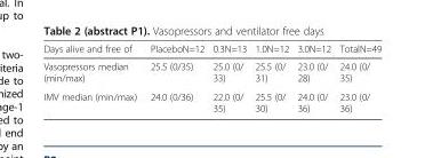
<table><thead><tr><td>Days alive and free of</td><td>PlaceboN=12</td><td>0.3N=13</td><td>1.0N=12</td><td>3.0N=12</td><td>TotalN=49</td></tr></thead><tbody><tr><td>Vasopressors median (min/max)</td><td>25.5 (0/35)</td><td>25.0 (0/ 33)</td><td>25.5 (0/ 31)</td><td>23.0 (0/ 28)</td><td>24.0 (0/ 35)</td></tr><tr><td>IMV median (min/max)</td><td>24.0 (0/36)</td><td>22.0 (0/ 35)</td><td>25.5 (0/ 30)</td><td>24.0 (0/ 36)</td><td>23.0 (0/ 36)</td></tr></tbody></table>